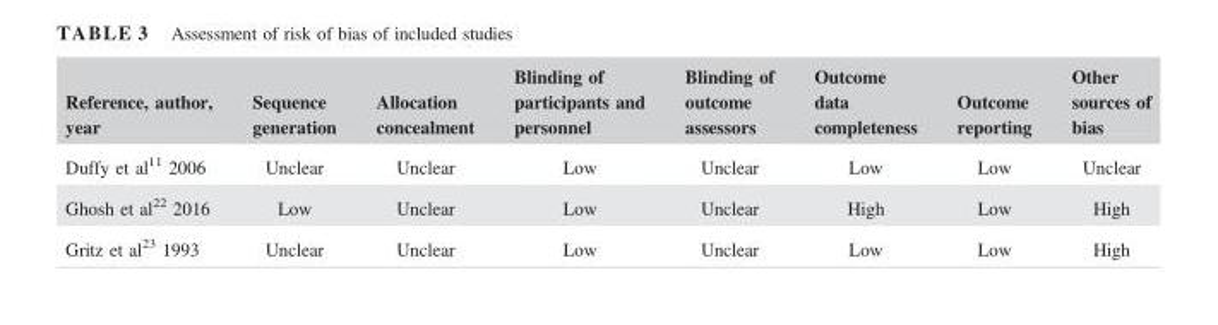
<table><thead><tr><td>Reference, author, year</td><td>Sequence generation</td><td>Allocation concealment</td><td>Blinding of participants and personnel</td><td>Blinding of outcome assessors</td><td>Outcome data completeness</td><td>Outcome reporting</td><td>Other sources of bias</td></tr></thead><tbody><tr><td>Duffy et al<sup>11</sup> 2006</td><td>Unclear</td><td>Unclear</td><td>Low</td><td>Unclear</td><td>Low</td><td>Low</td><td>Unclear</td></tr><tr><td>Ghosh et al<sup>22</sup> 2016</td><td>Low</td><td>Unclear</td><td>Low</td><td>Unclear</td><td>High</td><td>Low</td><td>High</td></tr><tr><td>Gritz et al<sup>23</sup> 1993</td><td>Unclear</td><td>Unclear</td><td>Low</td><td>Unclear</td><td>Low</td><td>Low</td><td>High</td></tr></tbody></table>